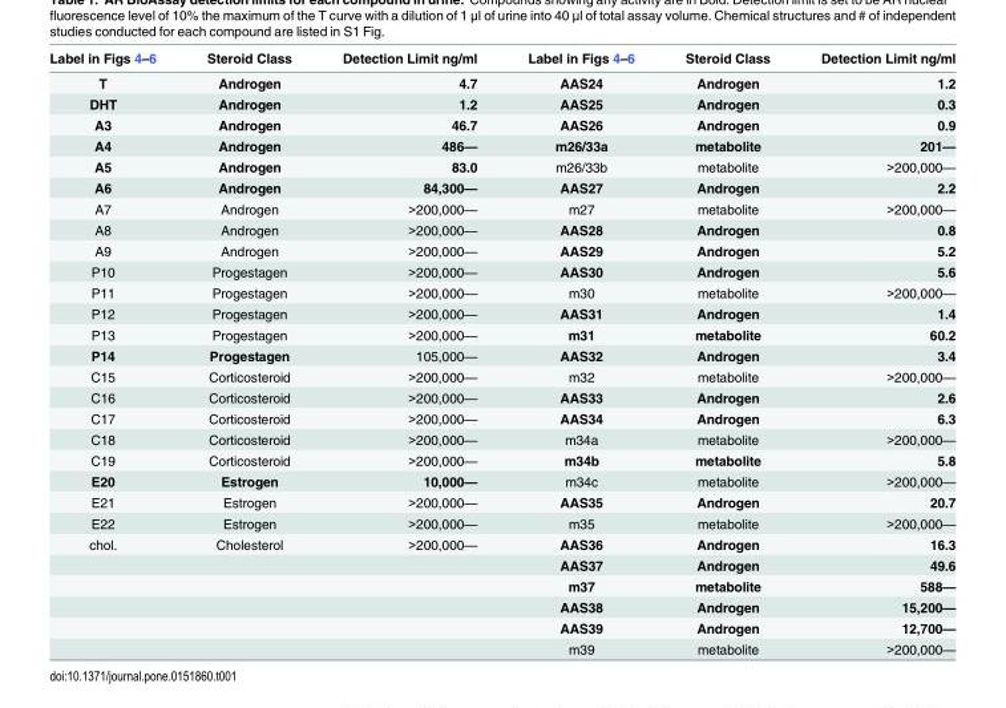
<table><thead><tr><td>Label in Figs 4–6</td><td>Steroid Class</td><td>Detection Limit ng/ml</td><td>Label in Figs 4–6</td><td>Steroid Class</td><td>Detection Limit ng/ml</td></tr></thead><tbody><tr><td>T</td><td>Androgen</td><td>4.7</td><td>AAS24</td><td>Androgen</td><td>1.2</td></tr><tr><td>DHT</td><td>Androgen</td><td>1.2</td><td>AAS25</td><td>Androgen</td><td>0.3</td></tr><tr><td>A3</td><td>Androgen</td><td>46.7</td><td>AAS26</td><td>Androgen</td><td>0.9</td></tr><tr><td>A4</td><td>Androgen</td><td>486—</td><td>m26/33a</td><td>metabolite</td><td>201—</td></tr><tr><td>A5</td><td>Androgen</td><td>83.0</td><td>m26/33b</td><td>metabolite</td><td>&gt;200,000—</td></tr><tr><td>A6</td><td>Androgen</td><td>84,300—</td><td>AAS27</td><td>Androgen</td><td>2.2</td></tr><tr><td>A7</td><td>Androgen</td><td>&gt;200,000—</td><td>m27</td><td>metabolite</td><td>&gt;200,000—</td></tr><tr><td>A8</td><td>Androgen</td><td>&gt;200,000—</td><td>AAS28</td><td>Androgen</td><td>0.8</td></tr><tr><td>A9</td><td>Androgen</td><td>&gt;200,000—</td><td>AAS29</td><td>Androgen</td><td>5.2</td></tr><tr><td>P10</td><td>Progestagen</td><td>&gt;200,000—</td><td>AAS30</td><td>Androgen</td><td>5.6</td></tr><tr><td>P11</td><td>Progestagen</td><td>&gt;200,000—</td><td>m30</td><td>metabolite</td><td>&gt;200,000—</td></tr><tr><td>P12</td><td>Progestagen</td><td>&gt;200,000—</td><td>AAS31</td><td>Androgen</td><td>1.4</td></tr><tr><td>P13</td><td>Progestagen</td><td>&gt;200,000—</td><td>m31</td><td>metabolite</td><td>60.2</td></tr><tr><td>P14</td><td>Progestagen</td><td>105,000—</td><td>AAS32</td><td>Androgen</td><td>3.4</td></tr><tr><td>C15</td><td>Corticosteroid</td><td>&gt;200,000—</td><td>m32</td><td>metabolite</td><td>&gt;200,000—</td></tr><tr><td>C16</td><td>Corticosteroid</td><td>&gt;200,000—</td><td>AAS33</td><td>Androgen</td><td>2.6</td></tr><tr><td>C17</td><td>Corticosteroid</td><td>&gt;200,000—</td><td>AAS34</td><td>Androgen</td><td>6.3</td></tr><tr><td>C18</td><td>Corticosteroid</td><td>&gt;200,000—</td><td>m34a</td><td>metabolite</td><td>&gt;200,000—</td></tr><tr><td>C19</td><td>Corticosteroid</td><td>&gt;200,000—</td><td>m34b</td><td>metabolite</td><td>5.8</td></tr><tr><td>E20</td><td>Estrogen</td><td>10,000—</td><td>m34c</td><td>metabolite</td><td>&gt;200,000—</td></tr><tr><td>E21</td><td>Estrogen</td><td>&gt;200,000—</td><td>AAS35</td><td>Androgen</td><td>20.7</td></tr><tr><td>E22</td><td>Estrogen</td><td>&gt;200,000—</td><td>m35</td><td>metabolite</td><td>&gt;200,000—</td></tr><tr><td rowspan="6">chol.</td><td>Cholesterol</td><td>&gt;200,000—</td><td>AAS36</td><td>Androgen</td><td>16.3</td></tr><tr><td></td><td></td><td>AAS37</td><td>Androgen</td><td>49.6</td></tr><tr><td></td><td></td><td>m37</td><td>metabolite</td><td>588—</td></tr><tr><td></td><td></td><td>AAS38</td><td>Androgen</td><td>15,200—</td></tr><tr><td></td><td></td><td>AAS39</td><td>Androgen</td><td>12,700—</td></tr><tr><td></td><td></td><td>m39</td><td>metabolite</td><td>&gt;200,000—</td></tr></tbody></table>